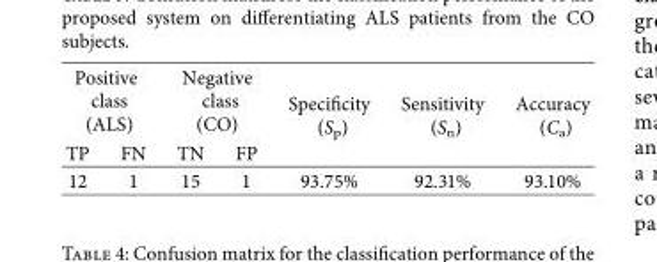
<table><thead><tr><td colspan="2">Positive class (ALS)</td><td colspan="2">Negative class (CO)</td><td rowspan="2">Specificity (S<sub>p</sub>)</td><td rowspan="2">Sensitivity (S<sub>n</sub>)</td><td rowspan="2">Accuracy (C<sub>a</sub>)</td></tr><tr><td>TP</td><td>FN</td><td>TN</td><td>FP</td></tr></thead><tbody><tr><td>12</td><td>1</td><td>15</td><td>1</td><td>93.75%</td><td>92.31%</td><td>93.10%</td></tr></tbody></table>